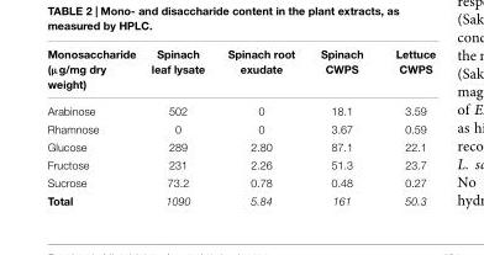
<table><thead><tr><td>Monosaccharide (µg/mg dry weight)</td><td>Spinach leaf lysate</td><td>Spinach root exudate</td><td>Spinach CWPS</td><td>Lettuce CWPS</td></tr></thead><tbody><tr><td>Arabinose</td><td>502</td><td>0</td><td>18.1</td><td>3.59</td></tr><tr><td>Rhamnose</td><td>0</td><td>0</td><td>3.67</td><td>0.59</td></tr><tr><td>Glucose</td><td>289</td><td>2.80</td><td>87.1</td><td>22.1</td></tr><tr><td>Fructose</td><td>231</td><td>2.26</td><td>51.3</td><td>23.7</td></tr><tr><td>Sucrose</td><td>73.2</td><td>0.78</td><td>0.48</td><td>0.27</td></tr><tr><td>Total</td><td>1090</td><td>5.84</td><td>161</td><td>50.3</td></tr></tbody></table>